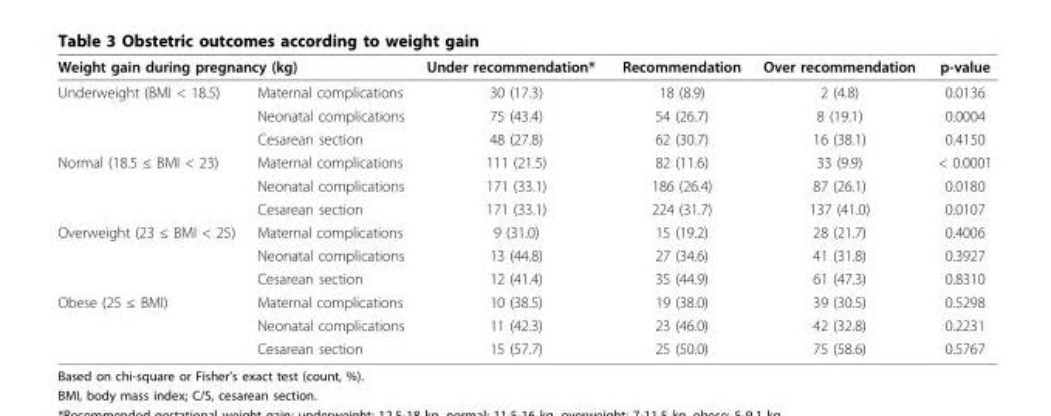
<table><thead><tr><td colspan="2">Weight gain during pregnancy (kg)</td><td rowspan="2">Under recommendation* 30 (17.3)</td><td rowspan="2">Recommendation 18 (8.9)</td><td rowspan="2">Over recommendation 2 (4.8)</td><td rowspan="2">p-value 0.0136</td></tr><tr><td>Underweight (BMI &lt; 18.5)</td><td>Maternal complications</td></tr></thead><tbody><tr><td></td><td>Neonatal complications</td><td>75 (43.4)</td><td>54 (26.7)</td><td>8 (19.1)</td><td>0.0004</td></tr><tr><td></td><td>Cesarean section</td><td>48 (27.8)</td><td>62 (30.7)</td><td>16 (38.1)</td><td>0.4150</td></tr><tr><td rowspan="3">Normal (18.5 ≤ BMI &lt; 23)</td><td>Maternal complications</td><td>111 (21.5)</td><td>82 (11.6)</td><td>33 (9.9)</td><td>&lt; 0.0001</td></tr><tr><td>Neonatal complications</td><td>171 (33.1)</td><td>186 (26.4)</td><td>87 (26.1)</td><td>0.0180</td></tr><tr><td>Cesarean section</td><td>171 (33.1)</td><td>224 (31.7)</td><td>137 (41.0)</td><td>0.0107</td></tr><tr><td rowspan="3">Overweight (23 ≤ BMI &lt; 25)</td><td>Maternal complications</td><td>9 (31.0)</td><td>15 (19.2)</td><td>28 (21.7)</td><td>0.4006</td></tr><tr><td>Neonatal complications</td><td>13 (44.8)</td><td>27 (34.6)</td><td>41 (31.8)</td><td>0.3927</td></tr><tr><td>Cesarean section</td><td>12 (41.4)</td><td>35 (44.9)</td><td>61 (47.3)</td><td>0.8310</td></tr><tr><td rowspan="3">Obese (25 ≤ BMI)</td><td>Maternal complications</td><td>10 (38.5)</td><td>19 (38.0)</td><td>39 (30.5)</td><td>0.5298</td></tr><tr><td>Neonatal complications</td><td>11 (42.3)</td><td>23 (46.0)</td><td>42 (32.8)</td><td>0.2231</td></tr><tr><td>Cesarean section</td><td>15 (57.7)</td><td>25 (50.0)</td><td>75 (58.6)</td><td>0.5767</td></tr></tbody></table>